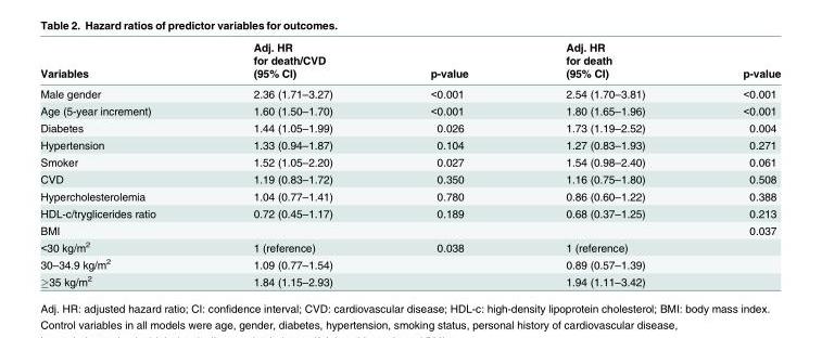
<table><thead><tr><td rowspan="3">Variables</td><td rowspan="3">Adj. HR for death/CVD (95% CI)</td><td rowspan="3">p-value</td><td rowspan="3">Adj. HR for death (95% CI)</td><td rowspan="3">p-value</td></tr><tr></tr><tr></tr></thead><tbody><tr><td>Male gender</td><td>2.36 (1.71–3.27)</td><td>&lt;0.001</td><td>2.54 (1.70–3.81)</td><td>&lt;0.001</td></tr><tr><td>Age (5-year increment)</td><td>1.60 (1.50–1.70)</td><td>&lt;0.001</td><td>1.80 (1.65–1.96)</td><td>&lt;0.001</td></tr><tr><td>Diabetes</td><td>1.44 (1.05–1.99)</td><td>0.026</td><td>1.73 (1.19–2.52)</td><td>0.004</td></tr><tr><td>Hypertension</td><td>1.33 (0.94–1.87)</td><td>0.104</td><td>1.27 (0.83–1.93)</td><td>0.271</td></tr><tr><td>Smoker</td><td>1.52 (1.05–2.20)</td><td>0.027</td><td>1.54 (0.98–2.40)</td><td>0.061</td></tr><tr><td>CVD</td><td>1.19 (0.83–1.72)</td><td>0.350</td><td>1.16 (0.75–1.80)</td><td>0.508</td></tr><tr><td>Hypercholesterolemia</td><td>1.04 (0.77–1.41)</td><td>0.780</td><td>0.86 (0.60–1.22)</td><td>0.388</td></tr><tr><td>HDL-c/tryglicerides ratio</td><td>0.72 (0.45–1.17)</td><td>0.189</td><td>0.68 (0.37–1.25)</td><td>0.213</td></tr><tr><td>BMI</td><td></td><td></td><td></td><td>0.037</td></tr><tr><td>&lt;30 kg/m<sup>2</sup></td><td>1 (reference)</td><td>0.038</td><td>1 (reference)</td><td></td></tr><tr><td>30–34.9 kg/m<sup>2</sup></td><td>1.09 (0.77–1.54)</td><td></td><td>0.89 (0.57–1.39)</td><td></td></tr><tr><td>≥35 kg/m<sup>2</sup></td><td>1.84 (1.15–2.93)</td><td></td><td>1.94 (1.11–3.42)</td><td></td></tr></tbody></table>